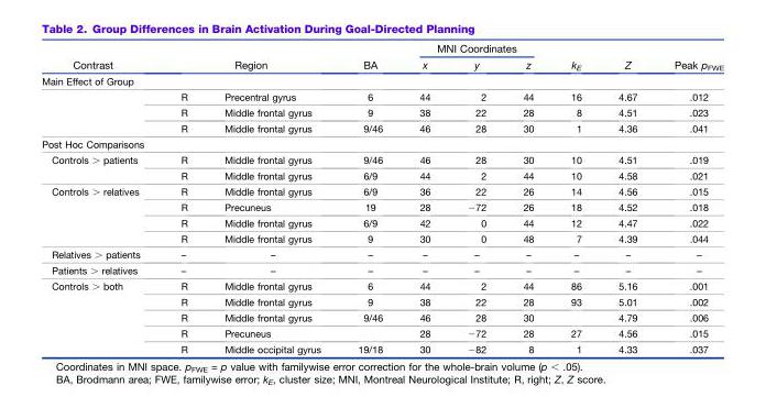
<table><thead><tr><td rowspan="3">Contrast Main Effect of Group</td><td rowspan="2" colspan="2">Region</td><td rowspan="3">BA</td><td colspan="3">MNI Coordinates</td><td rowspan="3">k<sub>E</sub></td><td rowspan="3">Z</td><td rowspan="3">Peak p<sub>FWE</sub></td></tr><tr><td rowspan="2">x</td><td rowspan="2">y</td><td rowspan="2">z</td></tr><tr><td></td><td></td></tr></thead><tbody><tr><td rowspan="3"></td><td>R</td><td>Precentral gyrus</td><td>6</td><td>44</td><td>2</td><td>44</td><td>16</td><td>4.67</td><td>.012</td></tr><tr><td>R</td><td>Middle frontal gyrus</td><td>9</td><td>38</td><td>22</td><td>28</td><td>8</td><td>4.51</td><td>.023</td></tr><tr><td>R</td><td>Middle frontal gyrus</td><td>9/46</td><td>46</td><td>28</td><td>30</td><td>1</td><td>4.36</td><td>.041</td></tr><tr><td colspan="10">Post Hoc Comparisons</td></tr><tr><td rowspan="2">Controls &gt; patients</td><td>R</td><td>Middle frontal gyrus</td><td>9/46</td><td>46</td><td>28</td><td>30</td><td>10</td><td>4.51</td><td>.019</td></tr><tr><td>R</td><td>Middle frontal gyrus</td><td>6/9</td><td>44</td><td>2</td><td>44</td><td>10</td><td>4.58</td><td>.021</td></tr><tr><td rowspan="4">Controls &gt; relatives</td><td>R</td><td>Middle frontal gyrus</td><td>6/9</td><td>36</td><td>22</td><td>26</td><td>14</td><td>4.56</td><td>.015</td></tr><tr><td>R</td><td>Precuneus</td><td>19</td><td>28</td><td>−72</td><td>26</td><td>18</td><td>4.52</td><td>.018</td></tr><tr><td>R</td><td>Middle frontal gyrus</td><td>6/9</td><td>42</td><td>0</td><td>44</td><td>12</td><td>4.47</td><td>.022</td></tr><tr><td>R</td><td>Middle frontal gyrus</td><td>9</td><td>30</td><td>0</td><td>48</td><td>7</td><td>4.39</td><td>.044</td></tr><tr><td>Relatives &gt; patients</td><td>–</td><td>–</td><td>–</td><td>–</td><td>–</td><td>–</td><td>–</td><td>–</td><td>–</td></tr><tr><td>Patients &gt; relatives</td><td>–</td><td>–</td><td>–</td><td>–</td><td>–</td><td>–</td><td>–</td><td>–</td><td>–</td></tr><tr><td rowspan="5">Controls &gt; both</td><td>R</td><td>Middle frontal gyrus</td><td>6</td><td>44</td><td>2</td><td>44</td><td>86</td><td>5.16</td><td>.001</td></tr><tr><td>R</td><td>Middle frontal gyrus</td><td>9</td><td>38</td><td>22</td><td>28</td><td>93</td><td>5.01</td><td>.002</td></tr><tr><td>R</td><td>Middle frontal gyrus</td><td>9/46</td><td>46</td><td>28</td><td>30</td><td></td><td>4.79</td><td>.006</td></tr><tr><td>R</td><td>Precuneus</td><td></td><td>28</td><td>−72</td><td>28</td><td>27</td><td>4.56</td><td>.015</td></tr><tr><td>R</td><td>Middle occipital gyrus</td><td>19/18</td><td>30</td><td>−82</td><td>8</td><td>1</td><td>4.33</td><td>.037</td></tr></tbody></table>